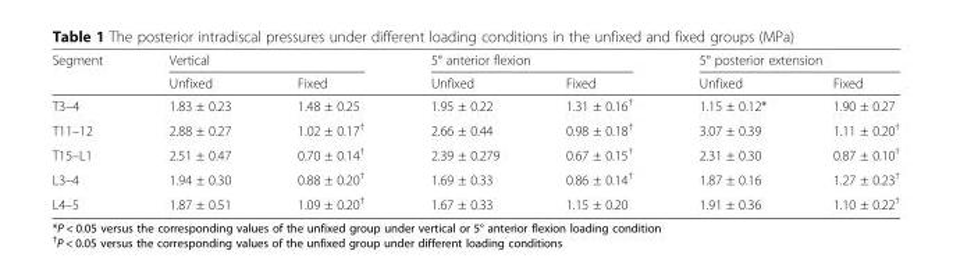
<table><thead><tr><td rowspan="2">Segment</td><td colspan="2">Vertical</td><td colspan="2">5° anterior flexion</td><td colspan="2">5° posterior extension</td></tr><tr><td>Unfixed</td><td>Fixed</td><td>Unfixed</td><td>Fixed</td><td>Unfixed</td><td>Fixed</td></tr></thead><tbody><tr><td>T3–4</td><td>1.83 ± 0.23</td><td>1.48 ± 0.25</td><td>1.95 ± 0.22</td><td>1.31 ± 0.16<sup>†</sup></td><td>1.15 ± 0.12*</td><td>1.90 ± 0.27</td></tr><tr><td>T11–12</td><td>2.88 ± 0.27</td><td>1.02 ± 0.17<sup>†</sup></td><td>2.66 ± 0.44</td><td>0.98 ± 0.18<sup>†</sup></td><td>3.07 ± 0.39</td><td>1.11 ± 0.20<sup>†</sup></td></tr><tr><td>T15–L1</td><td>2.51 ± 0.47</td><td>0.70 ± 0.14<sup>†</sup></td><td>2.39 ± 0.279</td><td>0.67 ± 0.15<sup>†</sup></td><td>2.31 ± 0.30</td><td>0.87 ± 0.10<sup>†</sup></td></tr><tr><td>L3–4</td><td>1.94 ± 0.30</td><td>0.88 ± 0.20<sup>†</sup></td><td>1.69 ± 0.33</td><td>0.86 ± 0.14<sup>†</sup></td><td>1.87 ± 0.16</td><td>1.27 ± 0.23<sup>†</sup></td></tr><tr><td>L4–5</td><td>1.87 ± 0.51</td><td>1.09 ± 0.20<sup>†</sup></td><td>1.67 ± 0.33</td><td>1.15 ± 0.20</td><td>1.91 ± 0.36</td><td>1.10 ± 0.22<sup>†</sup></td></tr></tbody></table>